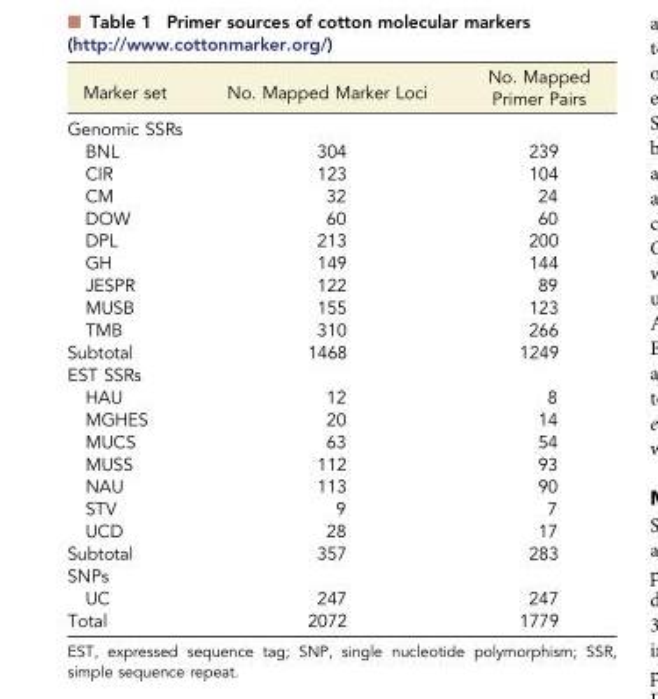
<table><thead><tr><td>Marker set</td><td>No. Mapped Marker Loci</td><td>No. Mapped Primer Pairs</td></tr></thead><tbody><tr><td colspan="3">Genomic SSRs</td></tr><tr><td>BNL</td><td>304</td><td>239</td></tr><tr><td>CIR</td><td>123</td><td>104</td></tr><tr><td>CM</td><td>32</td><td>24</td></tr><tr><td>DOW</td><td>60</td><td>60</td></tr><tr><td>DPL</td><td>213</td><td>200</td></tr><tr><td>GH</td><td>149</td><td>144</td></tr><tr><td>JESPR</td><td>122</td><td>89</td></tr><tr><td>MUSB</td><td>155</td><td>123</td></tr><tr><td>TMB</td><td>310</td><td>266</td></tr><tr><td>Subtotal</td><td>1468</td><td>1249</td></tr><tr><td colspan="3">EST SSRs</td></tr><tr><td>HAU</td><td>12</td><td>8</td></tr><tr><td>MGHES</td><td>20</td><td>14</td></tr><tr><td>MUCS</td><td>63</td><td>54</td></tr><tr><td>MUSS</td><td>112</td><td>93</td></tr><tr><td>NAU</td><td>113</td><td>90</td></tr><tr><td>STV</td><td>9</td><td>7</td></tr><tr><td>UCD</td><td>28</td><td>17</td></tr><tr><td>Subtotal</td><td>357</td><td>283</td></tr><tr><td colspan="3">SNPs</td></tr><tr><td>UC</td><td>247</td><td>247</td></tr><tr><td>Total</td><td>2072</td><td>1779</td></tr></tbody></table>